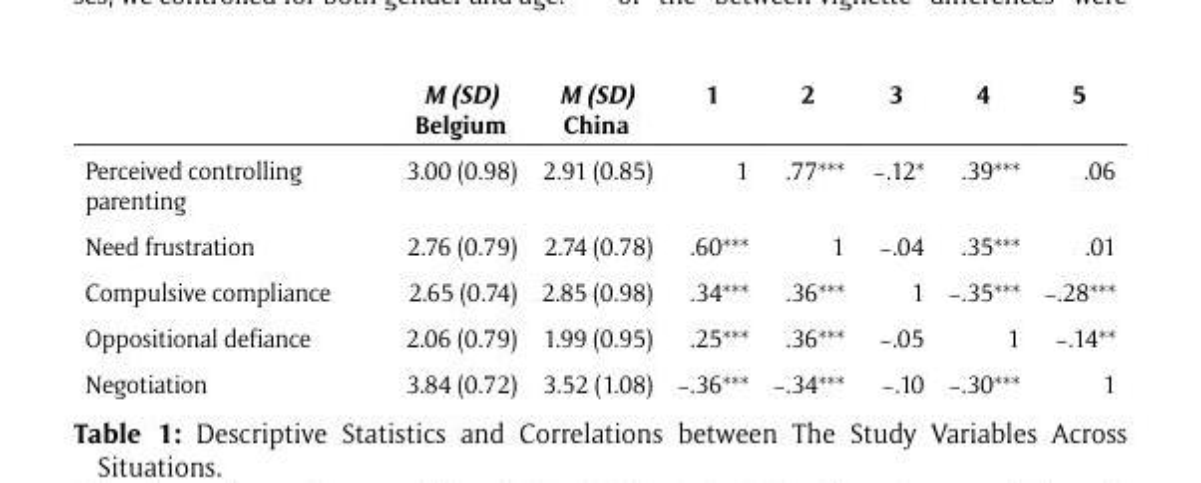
<table><thead><tr><td></td><td>M (SD) Belgium</td><td>M (SD) China</td><td>1</td><td>2</td><td>3</td><td>4</td><td>5</td></tr></thead><tbody><tr><td>Perceived controlling parenting</td><td>3.00 (0.98)</td><td>2.91 (0.85)</td><td>1</td><td>.77***</td><td>−.12*</td><td>.39***</td><td>.06</td></tr><tr><td>Need frustration</td><td>2.76 (0.79)</td><td>2.74 (0.78)</td><td>.60***</td><td>1</td><td>−.04</td><td>.35***</td><td>.01</td></tr><tr><td>Compulsive compliance</td><td>2.65 (0.74)</td><td>2.85 (0.98)</td><td>.34***</td><td>.36***</td><td>1</td><td>−.35***</td><td>−.28***</td></tr><tr><td>Oppositional defiance</td><td>2.06 (0.79)</td><td>1.99 (0.95)</td><td>.25***</td><td>.36***</td><td>−.05</td><td>1</td><td>−.14**</td></tr><tr><td>Negotiation</td><td>3.84 (0.72)</td><td>3.52 (1.08)</td><td>−.36***</td><td>−.34***</td><td>−.10</td><td>−.30***</td><td>1</td></tr></tbody></table>